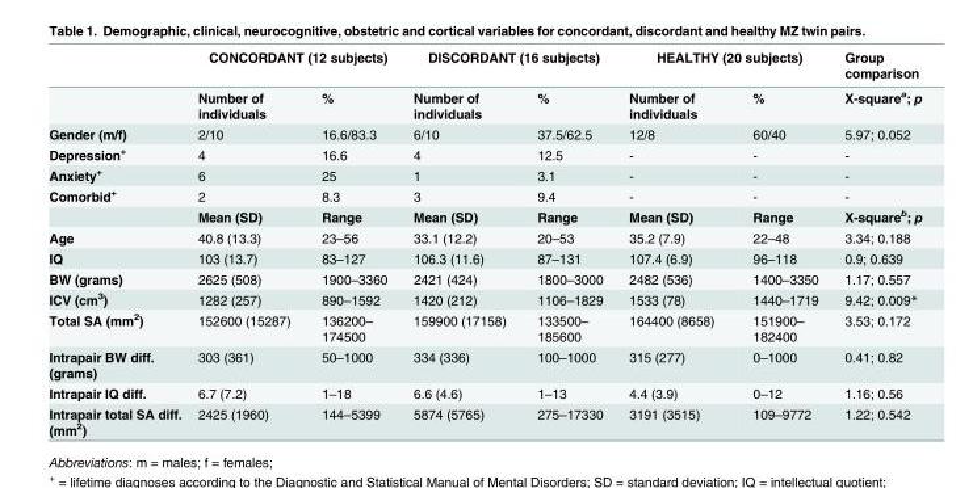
<table><thead><tr><td rowspan="2"></td><td colspan="2">CONCORDANT (12 subjects)</td><td colspan="2">DISCORDANT (16 subjects)</td><td colspan="2">HEALTHY (20 subjects)</td><td rowspan="2">Group comparison X-square<sup>a</sup>; p</td></tr><tr><td>Number of individuals</td><td>%</td><td>Number of individuals</td><td>%</td><td>Number of individuals</td><td>%</td></tr></thead><tbody><tr><td>Gender (m/f)</td><td>2/10</td><td>16.6/83.3</td><td>6/10</td><td>37.5/62.5</td><td>12/8</td><td>60/40</td><td>5.97; 0.052</td></tr><tr><td>Depression<sup>+</sup></td><td>4</td><td>16.6</td><td>4</td><td>12.5</td><td>-</td><td>-</td><td>-</td></tr><tr><td>Anxiety<sup>+</sup></td><td>6</td><td>25</td><td>1</td><td>3.1</td><td>-</td><td>-</td><td>-</td></tr><tr><td rowspan="2">Comorbid<sup>+</sup></td><td>2</td><td>8.3</td><td>3</td><td>9.4</td><td>-</td><td>-</td><td>-</td></tr><tr><td>Mean (SD)</td><td>Range</td><td>Mean (SD)</td><td>Range</td><td>Mean (SD)</td><td>Range</td><td>X-square<sup>b</sup>; p</td></tr><tr><td>Age</td><td>40.8 (13.3)</td><td>23–56</td><td>33.1 (12.2)</td><td>20–53</td><td>35.2 (7.9)</td><td>22–48</td><td>3.34; 0.188</td></tr><tr><td>IQ</td><td>103 (13.7)</td><td>83–127</td><td>106.3 (11.6)</td><td>87–131</td><td>107.4 (6.9)</td><td>96–118</td><td>0.9; 0.639</td></tr><tr><td>BW (grams)</td><td>2625 (508)</td><td>1900–3360</td><td>2421 (424)</td><td>1800–3000</td><td>2482 (536)</td><td>1400–3350</td><td>1.17; 0.557</td></tr><tr><td>ICV (cm<sup>3</sup>)</td><td>1282 (257)</td><td>890–1592</td><td>1420 (212)</td><td>1106–1829</td><td>1533 (78)</td><td>1440–1719</td><td>9.42; 0.009*</td></tr><tr><td>Total SA (mm<sup>2</sup>)</td><td>152600 (15287)</td><td>136200– 174500</td><td>159900 (17158)</td><td>133500– 185600</td><td>164400 (8658)</td><td>151900– 182400</td><td>3.53; 0.172</td></tr><tr><td>Intrapair BW diff. (grams)</td><td>303 (361)</td><td>50–1000</td><td>334 (336)</td><td>100–1000</td><td>315 (277)</td><td>0–1000</td><td>0.41; 0.82</td></tr><tr><td>Intrapair IQ diff.</td><td>6.7 (7.2)</td><td>1–18</td><td>6.6 (4.6)</td><td>1–13</td><td>4.4 (3.9)</td><td>0–12</td><td>1.16; 0.56</td></tr><tr><td>Intrapair total SA diff. (mm<sup>2</sup>)</td><td>2425 (1960)</td><td>144–5399</td><td>5874 (5765)</td><td>275–17330</td><td>3191 (3515)</td><td>109–9772</td><td>1.22; 0.542</td></tr></tbody></table>